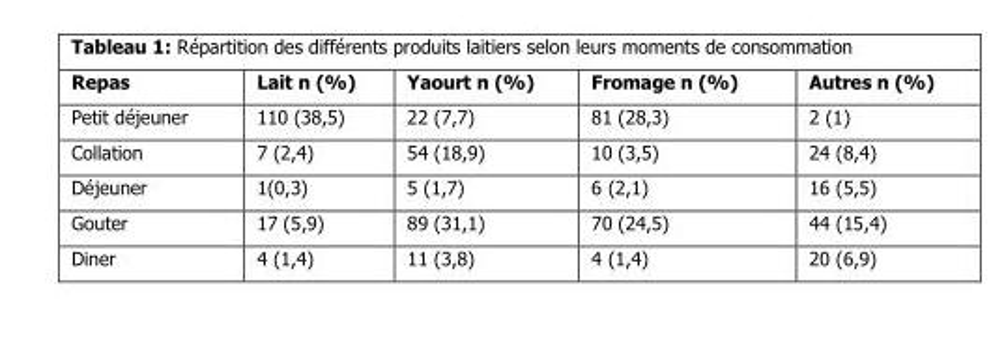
<table><thead><tr><td>Repas</td><td>Lait n (%)</td><td>Yaourt n (%)</td><td>Fromage n (%)</td><td>Autres n (%)</td></tr></thead><tbody><tr><td>Petit déjeuner</td><td>110 (38,5)</td><td>22 (7,7)</td><td>81 (28,3)</td><td>2 (1)</td></tr><tr><td>Collation</td><td>7 (2,4)</td><td>54 (18,9)</td><td>10 (3,5)</td><td>24 (8,4)</td></tr><tr><td>Déjeuner</td><td>1(0,3)</td><td>5 (1,7)</td><td>6 (2,1)</td><td>16 (5,5)</td></tr><tr><td>Gouter</td><td>17 (5,9)</td><td>89 (31,1)</td><td>70 (24,5)</td><td>44 (15,4)</td></tr><tr><td>Diner</td><td>4 (1,4)</td><td>11 (3,8)</td><td>4 (1,4)</td><td>20 (6,9)</td></tr></tbody></table>